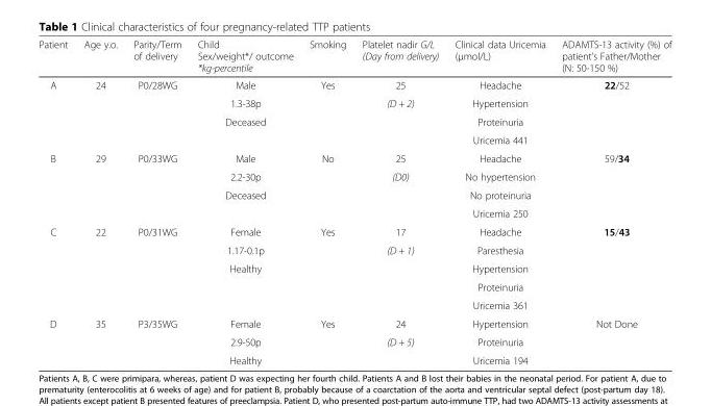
<table><thead><tr><td>Patient</td><td>Age y.o.</td><td>Parity/Term of delivery</td><td>Child Sex/weight*/ outcome *kg-percentile</td><td>Smoking</td><td>Platelet nadir G/L (Day from delivery)</td><td>Clinical data Uricemia (μmol/L)</td><td>ADAMTS-13 activity (%) of patient’s Father/Mother (N: 50-150 %)</td></tr></thead><tbody><tr><td rowspan="4">A</td><td rowspan="4">24</td><td rowspan="4">P0/28WG</td><td>Male</td><td rowspan="4">Yes</td><td>25</td><td>Headache</td><td rowspan="4">22/52</td></tr><tr><td>1.3-38p</td><td>(D + 2)</td><td>Hypertension</td></tr><tr><td rowspan="2">Deceased</td><td></td><td>Proteinuria</td></tr><tr><td></td><td>Uricemia 441</td></tr><tr><td rowspan="4">B</td><td rowspan="4">29</td><td rowspan="4">P0/33WG</td><td>Male</td><td rowspan="4">No</td><td>25</td><td>Headache</td><td rowspan="4">59/34</td></tr><tr><td>2.2-30p</td><td>(D0)</td><td>No hypertension</td></tr><tr><td>Deceased</td><td></td><td>No proteinuria</td></tr><tr><td></td><td></td><td>Uricemia 250</td></tr><tr><td rowspan="5">C</td><td rowspan="5">22</td><td rowspan="5">P0/31WG</td><td>Female</td><td rowspan="5">Yes</td><td>17</td><td>Headache</td><td rowspan="5">15/43</td></tr><tr><td>1.17-0.1p</td><td>(D + 1)</td><td>Paresthesia</td></tr><tr><td rowspan="3">Healthy</td><td></td><td>Hypertension</td></tr><tr><td></td><td>Proteinuria</td></tr><tr><td></td><td>Uricemia 361</td></tr><tr><td rowspan="3">D</td><td rowspan="3">35</td><td rowspan="3">P3/35WG</td><td>Female</td><td rowspan="3">Yes</td><td>24</td><td>Hypertension</td><td rowspan="3">Not Done</td></tr><tr><td>2.9-50p</td><td>(D + 5)</td><td>Proteinuria</td></tr><tr><td>Healthy</td><td></td><td>Uricemia 194</td></tr></tbody></table>